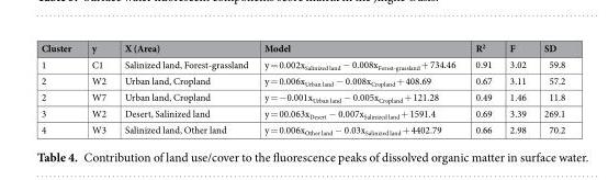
<table><thead><tr><td>Cluster</td><td>y</td><td>X (Area)</td><td>Model</td><td>R<sup>2</sup></td><td>F</td><td>SD</td></tr></thead><tbody><tr><td>1</td><td>C1</td><td>Salinized land, Forest-grassland</td><td>y = 0.002x<sub>Salinized land</sub> − 0.008x<sub>Forest-grassland</sub> + 734.46</td><td>0.91</td><td>3.02</td><td>59.8</td></tr><tr><td>2</td><td>W2</td><td>Urban land, Cropland</td><td>y = 0.006x<sub>Urban land</sub> − 0.008x<sub>Cropland</sub> + 408.69</td><td>0.67</td><td>3.11</td><td>57.2</td></tr><tr><td>2</td><td>W7</td><td>Urban land, Cropland</td><td>y = −0.001x<sub>Urban land</sub> − 0.005x<sub>Cropland</sub> + 121.28</td><td>0.49</td><td>1.46</td><td>11.8</td></tr><tr><td>3</td><td>W2</td><td>Desert, Salinized land</td><td>y = 00.063x<sub>Desert</sub> − 0.007x<sub>Salinized land</sub> + 1591.4</td><td>0.69</td><td>3.39</td><td>269.1</td></tr><tr><td>4</td><td>W3</td><td>Salinized land, Other land</td><td>y = 0.006x<sub>Other land</sub> − 0.03x<sub>Salinized land</sub> + 4402.79</td><td>0.66</td><td>2.98</td><td>70.2</td></tr></tbody></table>